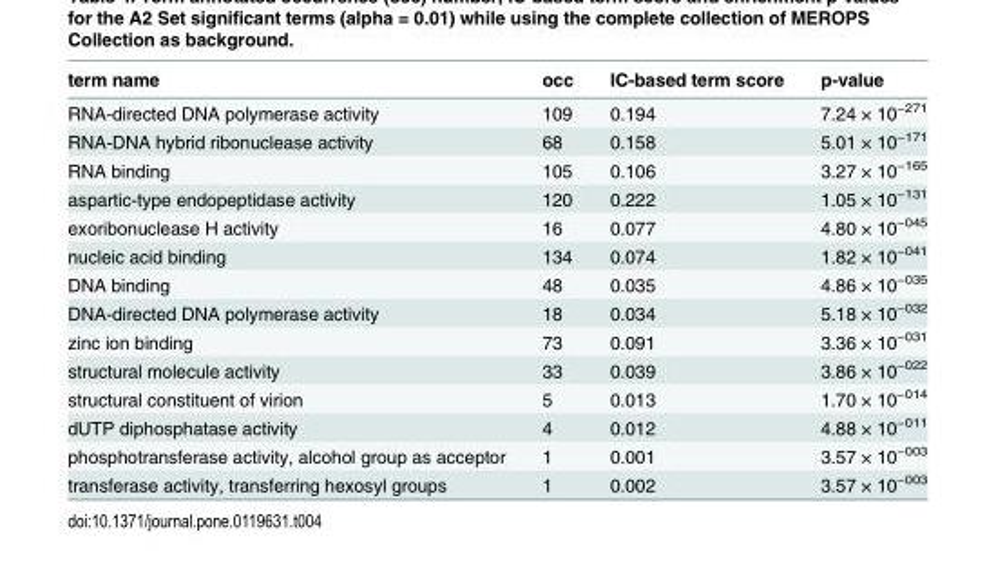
<table><thead><tr><td>term name</td><td>occ</td><td>IC-based term score</td><td>p-value</td></tr></thead><tbody><tr><td>RNA-directed DNA polymerase activity</td><td>109</td><td>0.194</td><td>7.24 × 10<sup>−271</sup></td></tr><tr><td>RNA-DNA hybrid ribonuclease activity</td><td>68</td><td>0.158</td><td>5.01 × 10<sup>−171</sup></td></tr><tr><td>RNA binding</td><td>105</td><td>0.106</td><td>3.27 × 10<sup>−165</sup></td></tr><tr><td>aspartic-type endopeptidase activity</td><td>120</td><td>0.222</td><td>1.05 × 10<sup>−131</sup></td></tr><tr><td>exoribonuclease H activity</td><td>16</td><td>0.077</td><td>4.80 × 10<sup>−045</sup></td></tr><tr><td>nucleic acid binding</td><td>134</td><td>0.074</td><td>1.82 × 10<sup>−041</sup></td></tr><tr><td>DNA binding</td><td>48</td><td>0.035</td><td>4.86 × 10<sup>−035</sup></td></tr><tr><td>DNA-directed DNA polymerase activity</td><td>18</td><td>0.034</td><td>5.18 × 10<sup>−032</sup></td></tr><tr><td>zinc ion binding</td><td>73</td><td>0.091</td><td>3.36 × 10<sup>−031</sup></td></tr><tr><td>structural molecule activity</td><td>33</td><td>0.039</td><td>3.86 × 10<sup>−022</sup></td></tr><tr><td>structural constituent of virion</td><td>5</td><td>0.013</td><td>1.70 × 10<sup>−014</sup></td></tr><tr><td>dUTP diphosphatase activity</td><td>4</td><td>0.012</td><td>4.88 × 10<sup>−011</sup></td></tr><tr><td>phosphotransferase activity, alcohol group as acceptor</td><td>1</td><td>0.001</td><td>3.57 × 10<sup>−003</sup></td></tr><tr><td>transferase activity, transferring hexosyl groups</td><td>1</td><td>0.002</td><td>3.57 × 10<sup>−003</sup></td></tr></tbody></table>